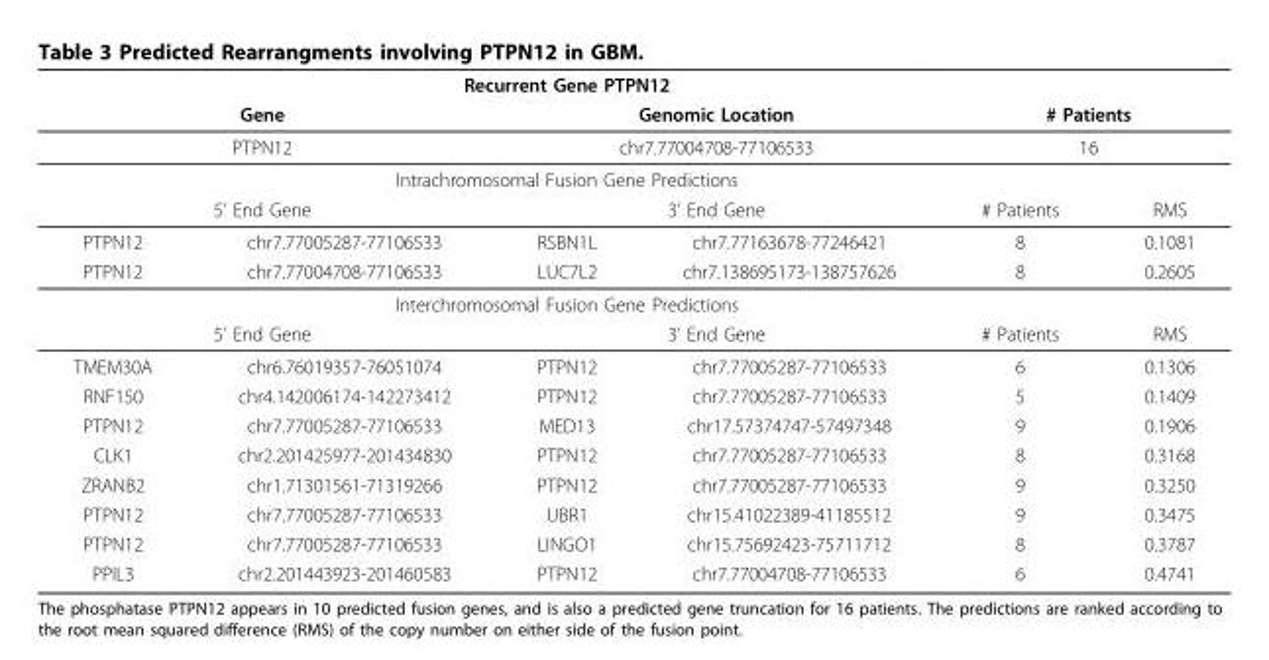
<table><thead><tr><td></td><td colspan="3">Recurrent Gene PTPN12</td><td></td><td></td></tr><tr><td colspan="2">Gene</td><td colspan="2">Genomic Location</td><td colspan="2"># Patients</td></tr></thead><tbody><tr><td colspan="2">PTPN12</td><td colspan="2">chr7.77004708-77106533</td><td colspan="2">16</td></tr><tr><td></td><td colspan="3">Intrachromosomal Fusion Gene Predictions</td><td></td><td></td></tr><tr><td colspan="2">5’ End Gene</td><td colspan="2">3’ End Gene</td><td># Patients</td><td>RMS</td></tr><tr><td>PTPN12</td><td>chr7.77005287-77106533</td><td>RSBN1L</td><td>chr7.77163678-77246421</td><td>8</td><td>0.1081</td></tr><tr><td rowspan="2">PTPN12</td><td>chr7.77004708-77106533</td><td>LUC7L2</td><td>chr7.138695173-138757626</td><td>8</td><td>0.2605</td></tr><tr><td colspan="3">Interchromosomal Fusion Gene Predictions</td><td></td><td></td></tr><tr><td colspan="2">5’ End Gene</td><td colspan="2">3’ End Gene</td><td># Patients</td><td>RMS</td></tr><tr><td>TMEM30A</td><td>chr6.76019357-76051074</td><td>PTPN12</td><td>chr7.77005287-77106533</td><td>6</td><td>0.1306</td></tr><tr><td>RNF150</td><td>chr4.142006174-142273412</td><td>PTPN12</td><td>chr7.77005287-77106533</td><td>5</td><td>0.1409</td></tr><tr><td>PTPN12</td><td>chr7.77005287-77106533</td><td>MED13</td><td>chr17.57374747-57497348</td><td>9</td><td>0.1906</td></tr><tr><td>CLK1</td><td>chr2.201425977-201434830</td><td>PTPN12</td><td>chr7.77005287-77106533</td><td>8</td><td>0.3168</td></tr><tr><td>ZRANB2</td><td>chr1.71301561-71319266</td><td>PTPN12</td><td>chr7.77005287-77106533</td><td>9</td><td>0.3250</td></tr><tr><td>PTPN12</td><td>chr7.77005287-77106533</td><td>UBR1</td><td>chr15.41022389-41185512</td><td>9</td><td>0.3475</td></tr><tr><td>PTPN12</td><td>chr7.77005287-77106533</td><td>LINGO1</td><td>chr15.75692423-75711712</td><td>8</td><td>0.3787</td></tr><tr><td>PPIL3</td><td>chr2.201443923-201460583</td><td>PTPN12</td><td>chr7.77004708-77106533</td><td>6</td><td>0.4741</td></tr></tbody></table>